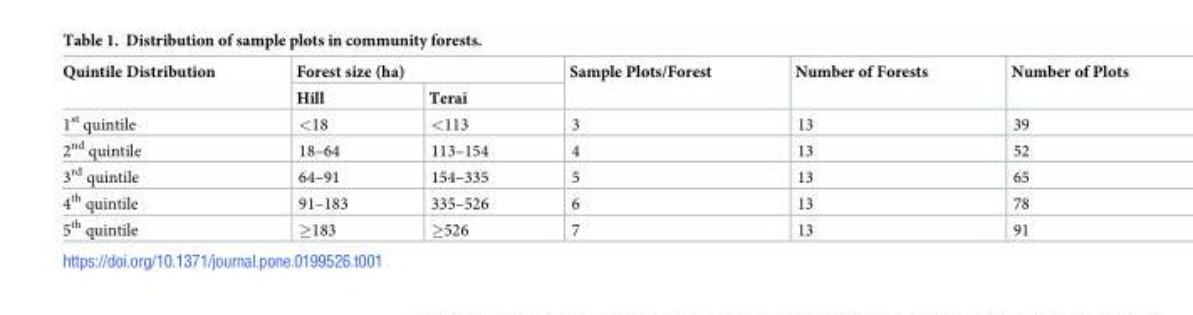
<table><thead><tr><td rowspan="2">Quintile Distribution</td><td colspan="2">Forest size (ha)</td><td rowspan="2">Sample Plots/Forest</td><td rowspan="2">Number of Forests</td><td rowspan="2">Number of Plots</td></tr><tr><td>Hill</td><td>Terai</td></tr></thead><tbody><tr><td>1<sup>st</sup> quintile</td><td>&lt;18</td><td>&lt;113</td><td>3</td><td>13</td><td>39</td></tr><tr><td>2<sup>nd</sup> quintile</td><td>18–64</td><td>113–154</td><td>4</td><td>13</td><td>52</td></tr><tr><td>3<sup>rd</sup> quintile</td><td>64–91</td><td>154–335</td><td>5</td><td>13</td><td>65</td></tr><tr><td>4<sup>th</sup> quintile</td><td>91–183</td><td>335–526</td><td>6</td><td>13</td><td>78</td></tr><tr><td>5<sup>th</sup> quintile</td><td>≥183</td><td>≥526</td><td>7</td><td>13</td><td>91</td></tr></tbody></table>